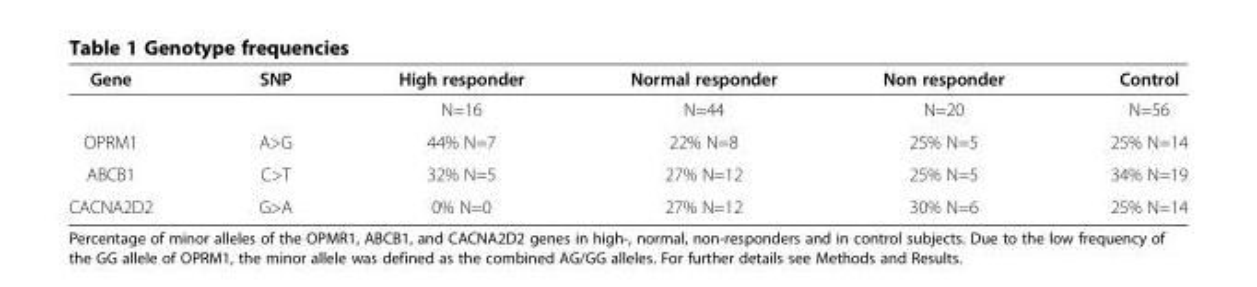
<table><thead><tr><td>Gene</td><td>SNP</td><td>High responder</td><td>Normal responder</td><td>Non responder</td><td>Control</td></tr></thead><tbody><tr><td></td><td></td><td>N=16</td><td>N=44</td><td>N=20</td><td>N=56</td></tr><tr><td>OPRM1</td><td>A&gt;G</td><td>44% N=7</td><td>22% N=8</td><td>25% N=5</td><td>25% N=14</td></tr><tr><td>ABCB1</td><td>C&gt;T</td><td>32% N=5</td><td>27% N=12</td><td>25% N=5</td><td>34% N=19</td></tr><tr><td>CACNA2D2</td><td>G&gt;A</td><td>0% N=0</td><td>27% N=12</td><td>30% N=6</td><td>25% N=14</td></tr></tbody></table>